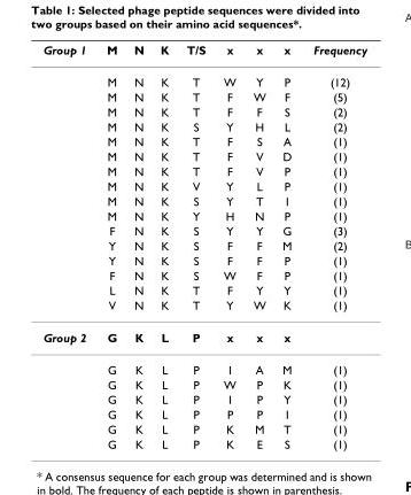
<table><thead><tr><td>Group 1</td><td>M</td><td>N</td><td>K</td><td>T/S</td><td>x</td><td>x</td><td>x</td><td>Frequency</td></tr></thead><tbody><tr><td></td><td>M</td><td>N</td><td>K</td><td>T</td><td>W</td><td>Y</td><td>P</td><td>(12)</td></tr><tr><td></td><td>M</td><td>N</td><td>K</td><td>T</td><td>F</td><td>W</td><td>F</td><td>(5)</td></tr><tr><td></td><td>M</td><td>N</td><td>K</td><td>T</td><td>F</td><td>F</td><td>S</td><td>(2)</td></tr><tr><td></td><td>M</td><td>N</td><td>K</td><td>S</td><td>Y</td><td>H</td><td>L</td><td>(2)</td></tr><tr><td></td><td>M</td><td>N</td><td>K</td><td>T</td><td>F</td><td>S</td><td>A</td><td>(1)</td></tr><tr><td></td><td>M</td><td>N</td><td>K</td><td>T</td><td>F</td><td>V</td><td>D</td><td>(1)</td></tr><tr><td></td><td>M</td><td>N</td><td>K</td><td>T</td><td>F</td><td>V</td><td>P</td><td>(1)</td></tr><tr><td></td><td>M</td><td>N</td><td>K</td><td>V</td><td>Y</td><td>L</td><td>P</td><td>(1)</td></tr><tr><td></td><td>M</td><td>N</td><td>K</td><td>S</td><td>Y</td><td>T</td><td>I</td><td>(1)</td></tr><tr><td></td><td>M</td><td>N</td><td>K</td><td>Y</td><td>H</td><td>N</td><td>P</td><td>(1)</td></tr><tr><td></td><td>F</td><td>N</td><td>K</td><td>S</td><td>Y</td><td>Y</td><td>G</td><td>(3)</td></tr><tr><td></td><td>Y</td><td>N</td><td>K</td><td>S</td><td>F</td><td>F</td><td>M</td><td>(2)</td></tr><tr><td></td><td>Y</td><td>N</td><td>K</td><td>S</td><td>F</td><td>F</td><td>P</td><td>(1)</td></tr><tr><td></td><td>F</td><td>N</td><td>K</td><td>S</td><td>W</td><td>F</td><td>P</td><td>(1)</td></tr><tr><td></td><td>L</td><td>N</td><td>K</td><td>T</td><td>F</td><td>Y</td><td>Y</td><td>(1)</td></tr><tr><td></td><td>V</td><td>N</td><td>K</td><td>T</td><td>Y</td><td>W</td><td>K</td><td>(1)</td></tr><tr><td rowspan="7">Group 2</td><td>G</td><td>K</td><td>L</td><td>P</td><td>x</td><td>x</td><td>x</td><td></td></tr><tr><td>G</td><td>K</td><td>L</td><td>P</td><td>I</td><td>A</td><td>M</td><td>(1)</td></tr><tr><td>G</td><td>K</td><td>L</td><td>P</td><td>W</td><td>P</td><td>K</td><td>(1)</td></tr><tr><td>G</td><td>K</td><td>L</td><td>P</td><td>I</td><td>P</td><td>Y</td><td>(1)</td></tr><tr><td>G</td><td>K</td><td>L</td><td>P</td><td>P</td><td>P</td><td>I</td><td>(1)</td></tr><tr><td>G</td><td>K</td><td>L</td><td>P</td><td>K</td><td>M</td><td>T</td><td>(1)</td></tr><tr><td>G</td><td>K</td><td>L</td><td>P</td><td>K</td><td>E</td><td>S</td><td>(1)</td></tr></tbody></table>